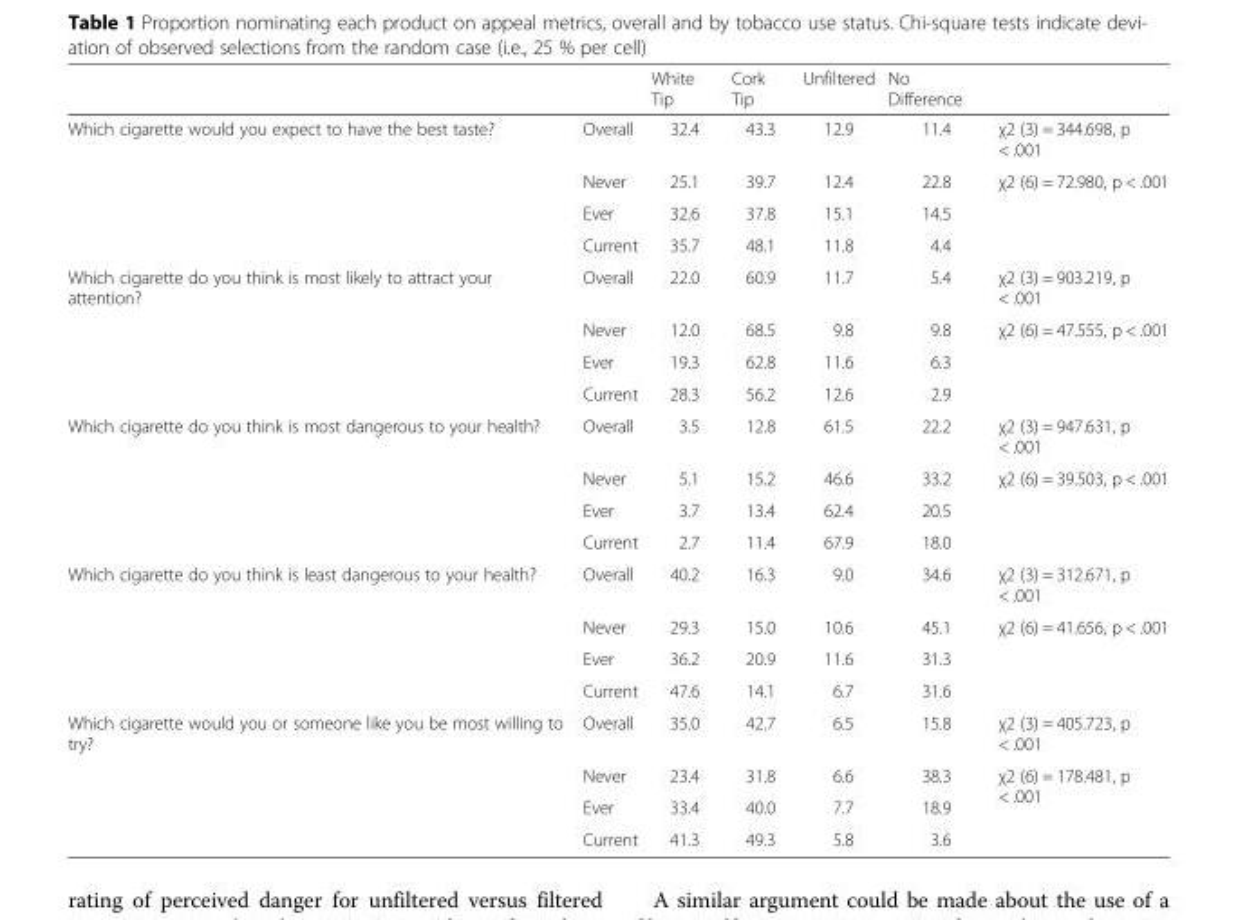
<table><thead><tr><td></td><td></td><td>White Tip</td><td>Cork Tip</td><td>Unfiltered</td><td>No Difference</td><td></td></tr></thead><tbody><tr><td rowspan="4">Which cigarette would you expect to have the best taste?</td><td>Overall</td><td>32.4</td><td>43.3</td><td>12.9</td><td>11.4</td><td>χ2 (3) = 344.698, p &lt; .001</td></tr><tr><td>Never</td><td>25.1</td><td>39.7</td><td>12.4</td><td>22.8</td><td rowspan="3">χ2 (6) = 72.980, p &lt; .001</td></tr><tr><td>Ever</td><td>32.6</td><td>37.8</td><td>15.1</td><td>14.5</td></tr><tr><td>Current</td><td>35.7</td><td>48.1</td><td>11.8</td><td>4.4</td></tr><tr><td rowspan="4">Which cigarette do you think is most likely to attract your attention?</td><td>Overall</td><td>22.0</td><td>60.9</td><td>11.7</td><td>5.4</td><td>χ2 (3) = 903.219, p &lt; .001</td></tr><tr><td>Never</td><td>12.0</td><td>68.5</td><td>9.8</td><td>9.8</td><td rowspan="3">χ2 (6) = 47.555, p &lt; .001</td></tr><tr><td>Ever</td><td>19.3</td><td>62.8</td><td>11.6</td><td>6.3</td></tr><tr><td>Current</td><td>28.3</td><td>56.2</td><td>12.6</td><td>2.9</td></tr><tr><td rowspan="4">Which cigarette do you think is most dangerous to your health?</td><td>Overall</td><td>3.5</td><td>12.8</td><td>61.5</td><td>22.2</td><td>χ2 (3) = 947.631, p &lt; .001</td></tr><tr><td>Never</td><td>5.1</td><td>15.2</td><td>46.6</td><td>33.2</td><td rowspan="3">χ2 (6) = 39.503, p &lt; .001</td></tr><tr><td>Ever</td><td>3.7</td><td>13.4</td><td>62.4</td><td>20.5</td></tr><tr><td>Current</td><td>2.7</td><td>11.4</td><td>67.9</td><td>18.0</td></tr><tr><td rowspan="4">Which cigarette do you think is least dangerous to your health?</td><td>Overall</td><td>40.2</td><td>16.3</td><td>9.0</td><td>34.6</td><td>χ2 (3) = 312.671, p &lt; .001</td></tr><tr><td>Never</td><td>29.3</td><td>15.0</td><td>10.6</td><td>45.1</td><td rowspan="3">χ2 (6) = 41.656, p &lt; .001</td></tr><tr><td>Ever</td><td>36.2</td><td>20.9</td><td>11.6</td><td>31.3</td></tr><tr><td>Current</td><td>47.6</td><td>14.1</td><td>6.7</td><td>31.6</td></tr><tr><td rowspan="4">Which cigarette would you or someone like you be most willing to try?</td><td>Overall</td><td>35.0</td><td>42.7</td><td>6.5</td><td>15.8</td><td>χ2 (3) = 405.723, p &lt; .001</td></tr><tr><td>Never</td><td>23.4</td><td>31.8</td><td>6.6</td><td>38.3</td><td rowspan="3">χ2 (6) = 178.481, p &lt; .001</td></tr><tr><td>Ever</td><td>33.4</td><td>40.0</td><td>7.7</td><td>18.9</td></tr><tr><td>Current</td><td>41.3</td><td>49.3</td><td>5.8</td><td>3.6</td></tr></tbody></table>